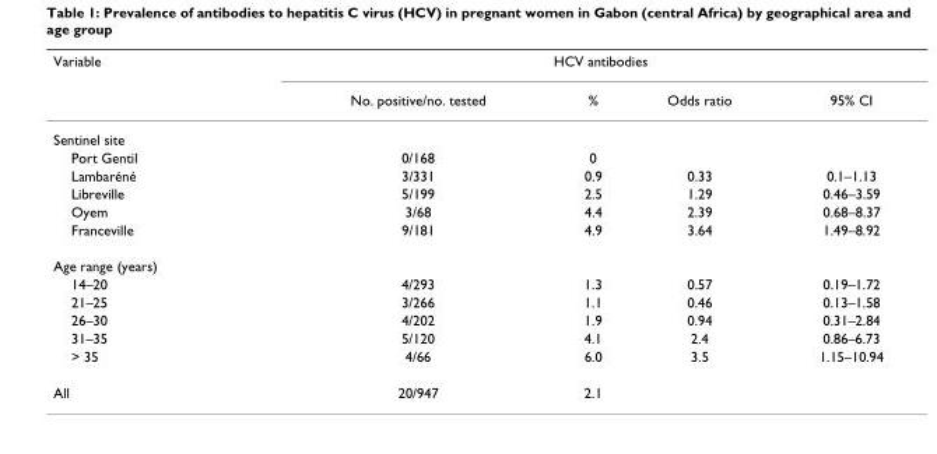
<table><thead><tr><td rowspan="2">Variable</td><td colspan="4">HCV antibodies</td></tr><tr><td>No. positive/no. tested</td><td>%</td><td>Odds ratio</td><td>95% CI</td></tr></thead><tbody><tr><td colspan="5">Sentinel site</td></tr><tr><td>Port Gentil</td><td>0/168</td><td>0</td><td></td><td></td></tr><tr><td>Lambaréné</td><td>3/331</td><td>0.9</td><td>0.33</td><td>0.1–1.13</td></tr><tr><td>Libreville</td><td>5/199</td><td>2.5</td><td>1.29</td><td>0.46–3.59</td></tr><tr><td>Oyem</td><td>3/68</td><td>4.4</td><td>2.39</td><td>0.68–8.37</td></tr><tr><td>Franceville</td><td>9/181</td><td>4.9</td><td>3.64</td><td>1.49–8.92</td></tr><tr><td colspan="5">Age range (years)</td></tr><tr><td>14–20</td><td>4/293</td><td>1.3</td><td>0.57</td><td>0.19–1.72</td></tr><tr><td>21–25</td><td>3/266</td><td>1.1</td><td>0.46</td><td>0.13–1.58</td></tr><tr><td>26–30</td><td>4/202</td><td>1.9</td><td>0.94</td><td>0.31–2.84</td></tr><tr><td>31–35</td><td>5/120</td><td>4.1</td><td>2.4</td><td>0.86–6.73</td></tr><tr><td>&gt; 35</td><td>4/66</td><td>6.0</td><td>3.5</td><td>1.15–10.94</td></tr><tr><td>All</td><td>20/947</td><td>2.1</td><td></td><td></td></tr></tbody></table>